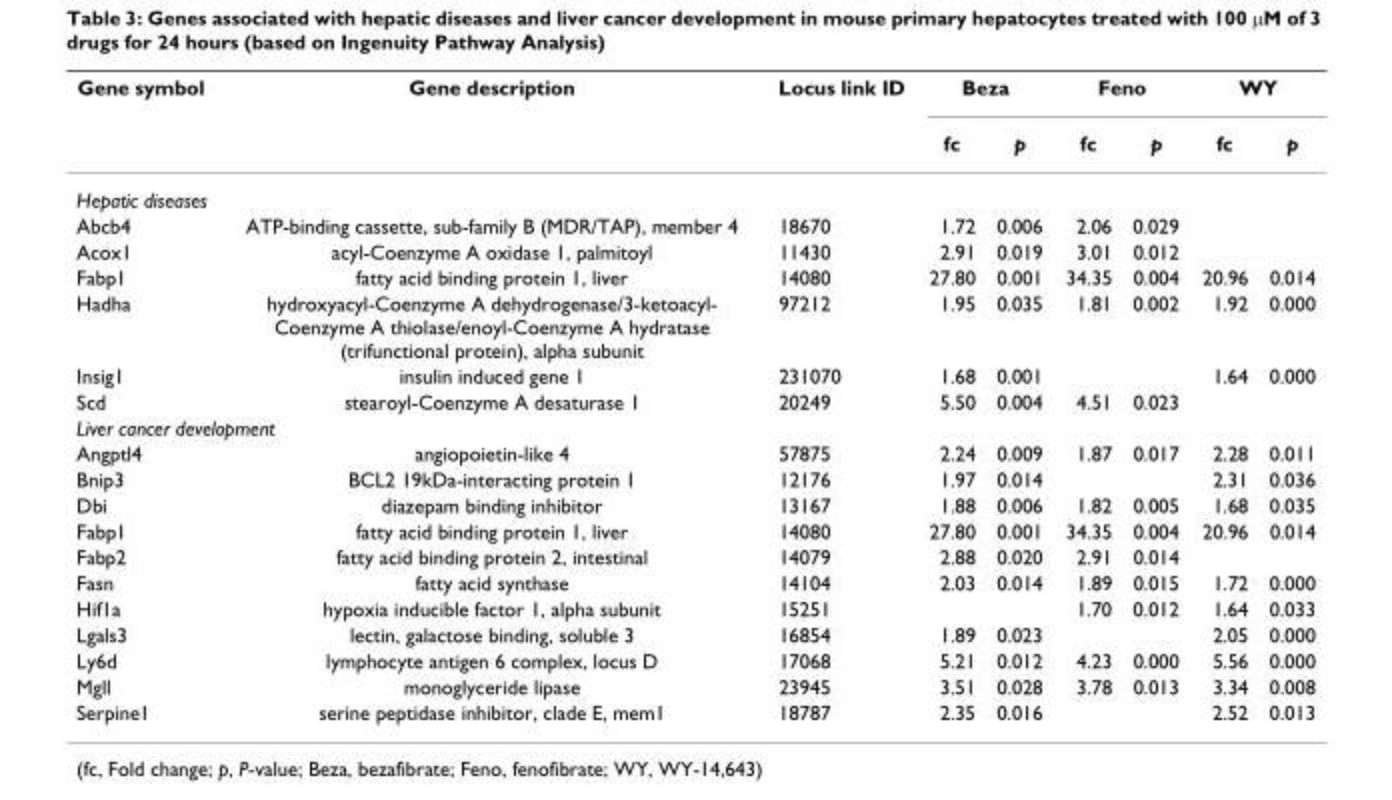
<table><thead><tr><td rowspan="2">Gene symbol</td><td rowspan="2">Gene description</td><td rowspan="2">Locus link ID</td><td colspan="2">Beza</td><td colspan="2">Feno</td><td colspan="2">WY</td></tr><tr><td>fc</td><td>p</td><td>fc</td><td>p</td><td>fc</td><td>p</td></tr></thead><tbody><tr><td colspan="9">Hepatic diseases</td></tr><tr><td>Abcb4</td><td>ATP-binding cassette, sub-family B (MDR/TAP), member 4</td><td>18670</td><td>1.72</td><td>0.006</td><td>2.06</td><td>0.029</td><td></td><td></td></tr><tr><td>Acox1</td><td>acyl-Coenzyme A oxidase 1, palmitoyl</td><td>11430</td><td>2.91</td><td>0.019</td><td>3.01</td><td>0.012</td><td></td><td></td></tr><tr><td>Fabp1</td><td>fatty acid binding protein 1, liver</td><td>14080</td><td>27.80</td><td>0.001</td><td>34.35</td><td>0.004</td><td>20.96</td><td>0.014</td></tr><tr><td>Hadha</td><td>hydroxyacyl-Coenzyme A dehydrogenase/3-ketoacyl- Coenzyme A thiolase/enoyl-Coenzyme A hydratase (trifunctional protein), alpha subunit</td><td>97212</td><td>1.95</td><td>0.035</td><td>1.81</td><td>0.002</td><td>1.92</td><td>0.000</td></tr><tr><td>Insig1</td><td>insulin induced gene 1</td><td>231070</td><td>1.68</td><td>0.001</td><td></td><td></td><td>1.64</td><td>0.000</td></tr><tr><td>Scd</td><td>stearoyl-Coenzyme A desaturase 1</td><td>20249</td><td>5.50</td><td>0.004</td><td>4.51</td><td>0.023</td><td></td><td></td></tr><tr><td colspan="9">Liver cancer development</td></tr><tr><td>Angptl4</td><td>angiopoietin-like 4</td><td>57875</td><td>2.24</td><td>0.009</td><td>1.87</td><td>0.017</td><td>2.28</td><td>0.011</td></tr><tr><td>Bnip3</td><td>BCL2 19kDa-interacting protein 1</td><td>12176</td><td>1.97</td><td>0.014</td><td></td><td></td><td>2.31</td><td>0.036</td></tr><tr><td>Dbi</td><td>diazepam binding inhibitor</td><td>13167</td><td>1.88</td><td>0.006</td><td>1.82</td><td>0.005</td><td>1.68</td><td>0.035</td></tr><tr><td>Fabp1</td><td>fatty acid binding protein 1, liver</td><td>14080</td><td>27.80</td><td>0.001</td><td>34.35</td><td>0.004</td><td>20.96</td><td>0.014</td></tr><tr><td>Fabp2</td><td>fatty acid binding protein 2, intestinal</td><td>14079</td><td>2.88</td><td>0.020</td><td>2.91</td><td>0.014</td><td></td><td></td></tr><tr><td>Fasn</td><td>fatty acid synthase</td><td>14104</td><td>2.03</td><td>0.014</td><td>1.89</td><td>0.015</td><td>1.72</td><td>0.000</td></tr><tr><td>Hif1a</td><td>hypoxia inducible factor 1, alpha subunit</td><td>15251</td><td></td><td></td><td>1.70</td><td>0.012</td><td>1.64</td><td>0.033</td></tr><tr><td>Lgals3</td><td>lectin, galactose binding, soluble 3</td><td>16854</td><td>1.89</td><td>0.023</td><td></td><td></td><td>2.05</td><td>0.000</td></tr><tr><td>Ly6d</td><td>lymphocyte antigen 6 complex, locus D</td><td>17068</td><td>5.21</td><td>0.012</td><td>4.23</td><td>0.000</td><td>5.56</td><td>0.000</td></tr><tr><td>Mgll</td><td>monoglyceride lipase</td><td>23945</td><td>3.51</td><td>0.028</td><td>3.78</td><td>0.013</td><td>3.34</td><td>0.008</td></tr><tr><td>Serpine1</td><td>serine peptidase inhibitor, clade E, mem1</td><td>18787</td><td>2.35</td><td>0.016</td><td></td><td></td><td>2.52</td><td>0.013</td></tr></tbody></table>